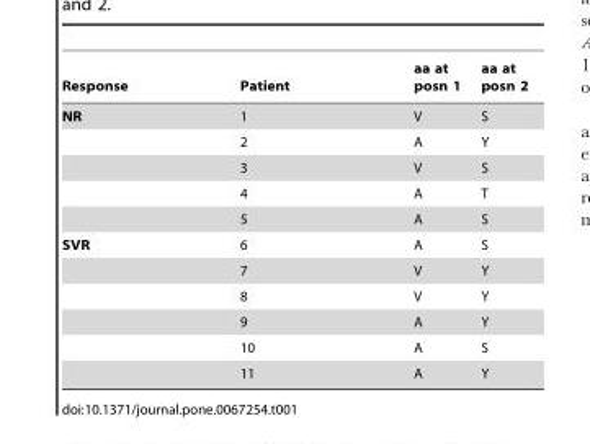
<table><thead><tr><td>Response</td><td>Patient</td><td>aa at posn 1</td><td>aa at posn 2</td></tr></thead><tbody><tr><td rowspan="5">NR</td><td>1</td><td>V</td><td>S</td></tr><tr><td>2</td><td>A</td><td>Y</td></tr><tr><td>3</td><td>V</td><td>S</td></tr><tr><td>4</td><td>A</td><td>T</td></tr><tr><td>5</td><td>A</td><td>S</td></tr><tr><td rowspan="6">SVR</td><td>6</td><td>A</td><td>S</td></tr><tr><td>7</td><td>V</td><td>Y</td></tr><tr><td>8</td><td>V</td><td>Y</td></tr><tr><td>9</td><td>A</td><td>Y</td></tr><tr><td>10</td><td>A</td><td>S</td></tr><tr><td>11</td><td>A</td><td>Y</td></tr></tbody></table>